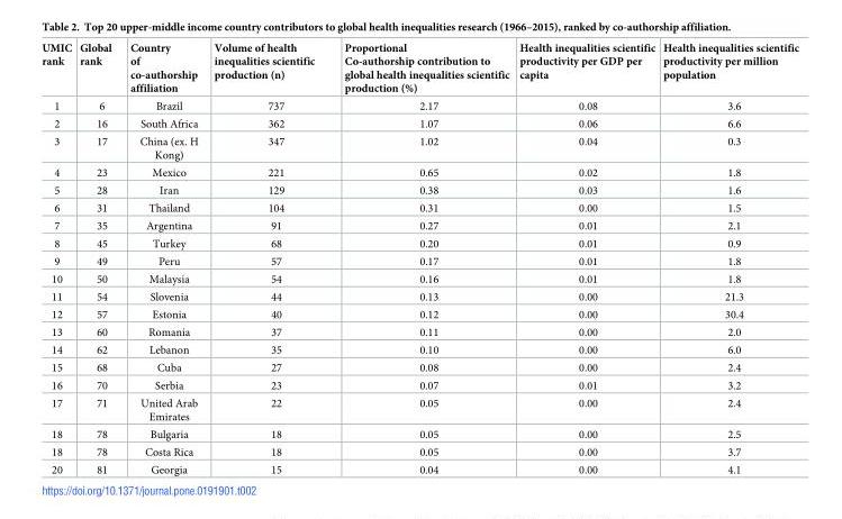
<table><thead><tr><td>UMIC rank</td><td>Global rank</td><td>Country of co-authorship affiliation</td><td>Volume of health inequalities scientific production (n)</td><td>Proportional Co-authorship contribution to global health inequalities scientific production (%)</td><td>Health inequalities scientific productivity per GDP per capita</td><td>Health inequalities scientific productivity per million population</td></tr></thead><tbody><tr><td>1</td><td>6</td><td>Brazil</td><td>737</td><td>2.17</td><td>0.08</td><td>3.6</td></tr><tr><td>2</td><td>16</td><td>South Africa</td><td>362</td><td>1.07</td><td>0.06</td><td>6.6</td></tr><tr><td>3</td><td>17</td><td>China (ex. H Kong)</td><td>347</td><td>1.02</td><td>0.04</td><td>0.3</td></tr><tr><td>4</td><td>23</td><td>Mexico</td><td>221</td><td>0.65</td><td>0.02</td><td>1.8</td></tr><tr><td>5</td><td>28</td><td>Iran</td><td>129</td><td>0.38</td><td>0.03</td><td>1.6</td></tr><tr><td>6</td><td>31</td><td>Thailand</td><td>104</td><td>0.31</td><td>0.00</td><td>1.5</td></tr><tr><td>7</td><td>35</td><td>Argentina</td><td>91</td><td>0.27</td><td>0.01</td><td>2.1</td></tr><tr><td>8</td><td>45</td><td>Turkey</td><td>68</td><td>0.20</td><td>0.01</td><td>0.9</td></tr><tr><td>9</td><td>49</td><td>Peru</td><td>57</td><td>0.17</td><td>0.01</td><td>1.8</td></tr><tr><td>10</td><td>50</td><td>Malaysia</td><td>54</td><td>0.16</td><td>0.01</td><td>1.8</td></tr><tr><td>11</td><td>54</td><td>Slovenia</td><td>44</td><td>0.13</td><td>0.00</td><td>21.3</td></tr><tr><td>12</td><td>57</td><td>Estonia</td><td>40</td><td>0.12</td><td>0.00</td><td>30.4</td></tr><tr><td>13</td><td>60</td><td>Romania</td><td>37</td><td>0.11</td><td>0.00</td><td>2.0</td></tr><tr><td>14</td><td>62</td><td>Lebanon</td><td>35</td><td>0.10</td><td>0.00</td><td>6.0</td></tr><tr><td>15</td><td>68</td><td>Cuba</td><td>27</td><td>0.08</td><td>0.00</td><td>2.4</td></tr><tr><td>16</td><td>70</td><td>Serbia</td><td>23</td><td>0.07</td><td>0.01</td><td>3.2</td></tr><tr><td>17</td><td>71</td><td>United Arab Emirates</td><td>22</td><td>0.05</td><td>0.00</td><td>2.4</td></tr><tr><td>18</td><td>78</td><td>Bulgaria</td><td>18</td><td>0.05</td><td>0.00</td><td>2.5</td></tr><tr><td>18</td><td>78</td><td>Costa Rica</td><td>18</td><td>0.05</td><td>0.00</td><td>3.7</td></tr><tr><td>20</td><td>81</td><td>Georgia</td><td>15</td><td>0.04</td><td>0.00</td><td>4.1</td></tr></tbody></table>